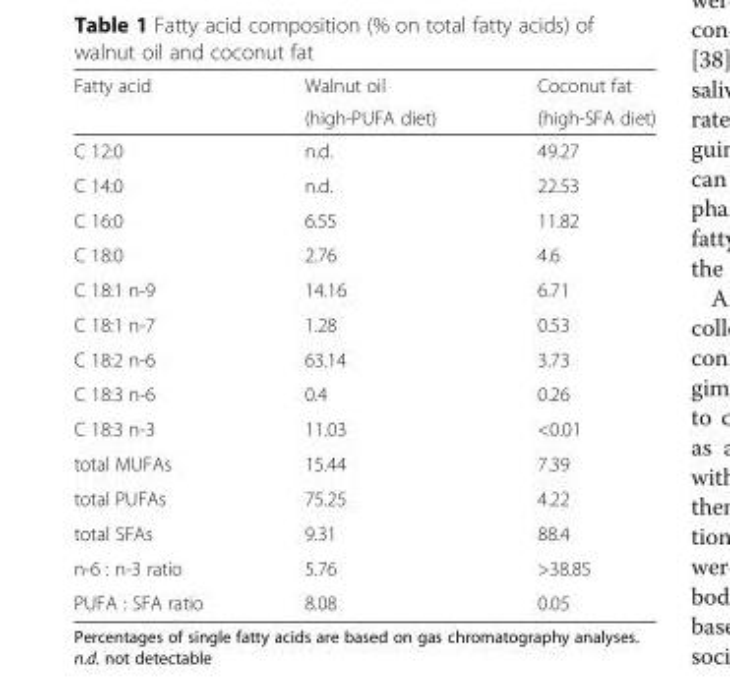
<table><thead><tr><td rowspan="2">Fatty acid</td><td rowspan="2">Walnut oil (high-PUFA diet)</td><td rowspan="2">Coconut fat (high-SFA diet)</td></tr><tr></tr></thead><tbody><tr><td>C 12:0</td><td>n.d.</td><td>49.27</td></tr><tr><td>C 14:0</td><td>n.d.</td><td>22.53</td></tr><tr><td>C 16:0</td><td>6.55</td><td>11.82</td></tr><tr><td>C 18:0</td><td>2.76</td><td>4.6</td></tr><tr><td>C 18:1 n-9</td><td>14.16</td><td>6.71</td></tr><tr><td>C 18:1 n-7</td><td>1.28</td><td>0.53</td></tr><tr><td>C 18:2 n-6</td><td>63.14</td><td>3.73</td></tr><tr><td>C 18:3 n-6</td><td>0.4</td><td>0.26</td></tr><tr><td>C 18:3 n-3</td><td>11.03</td><td>&lt;0.01</td></tr><tr><td>total MUFAs</td><td>15.44</td><td>7.39</td></tr><tr><td>total PUFAs</td><td>75.25</td><td>4.22</td></tr><tr><td>total SFAs</td><td>9.31</td><td>88.4</td></tr><tr><td>n-6 : n-3 ratio</td><td>5.76</td><td>&gt;38.85</td></tr><tr><td>PUFA : SFA ratio</td><td>8.08</td><td>0.05</td></tr></tbody></table>